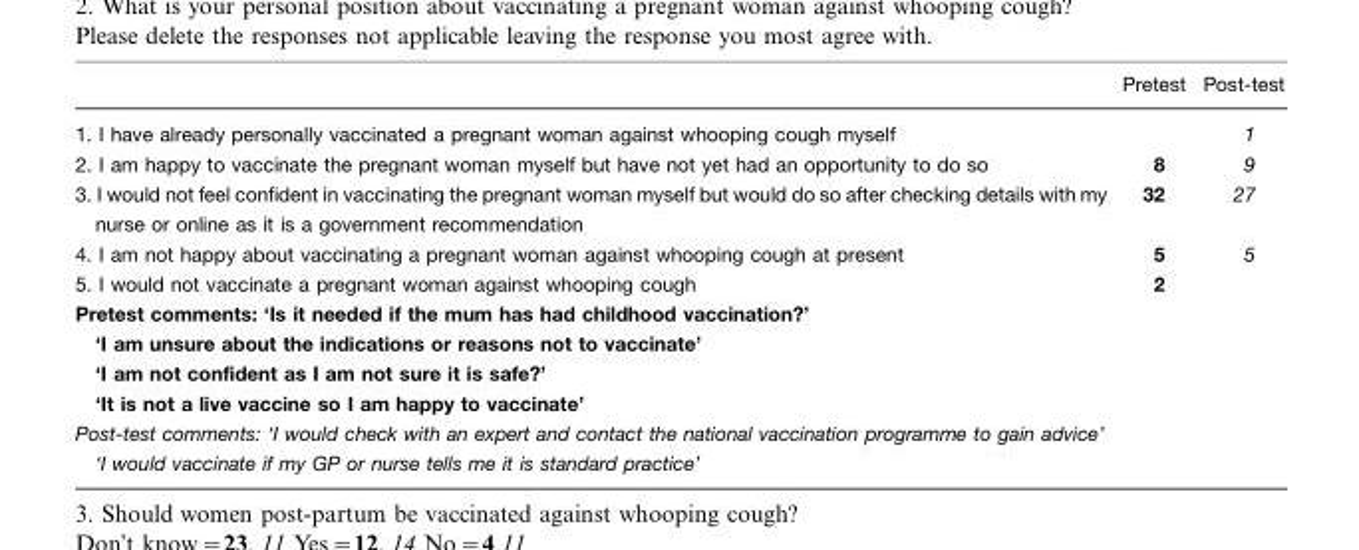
<table><thead><tr><td></td><td>Pretest</td><td>Post-test</td></tr></thead><tbody><tr><td>1. I have already personally vaccinated a pregnant woman against whooping cough myself</td><td></td><td>1</td></tr><tr><td>2. I am happy to vaccinate the pregnant woman myself but have not yet had an opportunity to do so</td><td>8</td><td>9</td></tr><tr><td>3. I would not feel confident in vaccinating the pregnant woman myself but would do so after checking details with my nurse or online as it is a government recommendation</td><td>32</td><td>27</td></tr><tr><td>4. I am not happy about vaccinating a pregnant woman against whooping cough at present</td><td>5</td><td>5</td></tr><tr><td>5. I would not vaccinate a pregnant woman against whooping cough</td><td>2</td><td></td></tr><tr><td colspan="3">Pretest comments: ‘Is it needed if the mum has had childhood vaccination?’ ‘I am unsure about the indications or reasons not to vaccinate’ ‘I am not confident as I am not sure it is safe?’ ‘It is not a live vaccine so I am happy to vaccinate’</td></tr><tr><td colspan="3">Post-test comments: ‘I would check with an expert and contact the national vaccination programme to gain advice’ ‘I would vaccinate if my GP or nurse tells me it is standard practice’</td></tr></tbody></table>